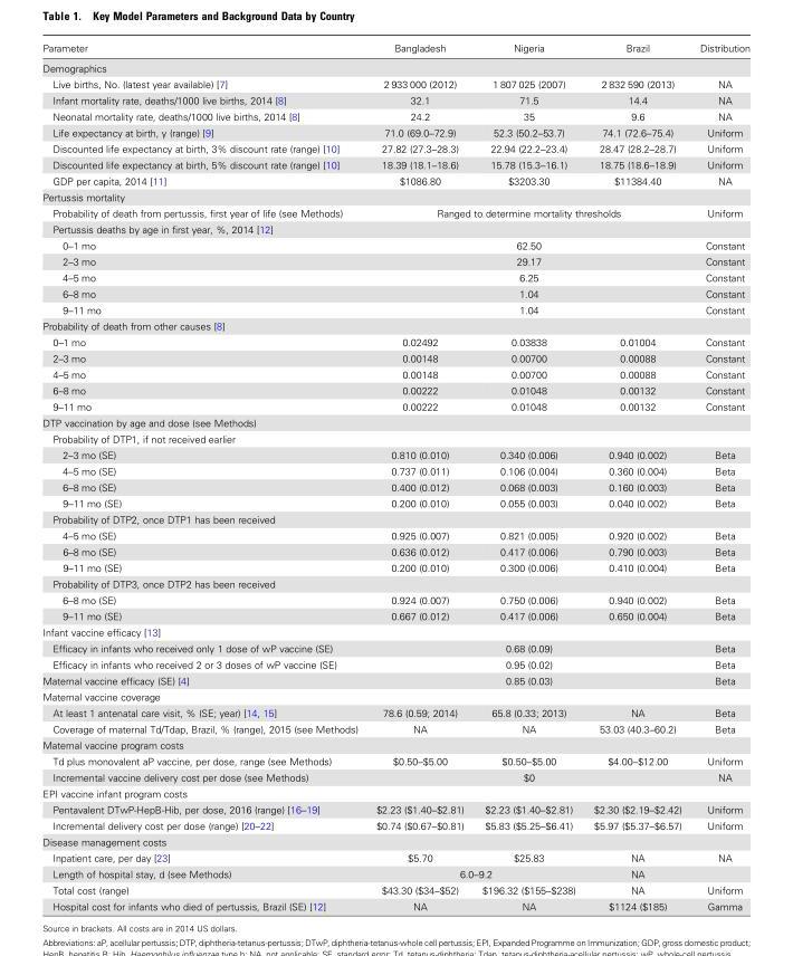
<table><thead><tr><td>Parameter</td><td>Bangladesh</td><td>Nigeria</td><td>Brazil</td><td>Distribution</td></tr></thead><tbody><tr><td colspan="5">Demographics</td></tr><tr><td>Live births, No. (latest year available) [7]</td><td>2 933 000 (2012)</td><td>1 807 025 (2007)</td><td>2 832 590 (2013)</td><td>NA</td></tr><tr><td>Infant mortality rate, deaths/1000 live births, 2014 [8]</td><td>32.1</td><td>71.5</td><td>14.4</td><td>NA</td></tr><tr><td>Neonatal mortality rate, deaths/1000 live births, 2014 [8]</td><td>24.2</td><td>35</td><td>9.6</td><td>NA</td></tr><tr><td>Life expectancy at birth, y (range) [9]</td><td>71.0 (69.0–72.9)</td><td>52.3 (50.2–53.7)</td><td>74.1 (72.6–75.4)</td><td>Uniform</td></tr><tr><td>Discounted life expectancy at birth, 3% discount rate (range) [10]</td><td>27.82 (27.3–28.3)</td><td>22.94 (22.2–23.4)</td><td>28.47 (28.2–28.7)</td><td>Uniform</td></tr><tr><td>Discounted life expectancy at birth, 5% discount rate (range) [10]</td><td>18.39 (18.1–18.6)</td><td>15.78 (15.3–16.1)</td><td>18.75 (18.6–18.9)</td><td>Uniform</td></tr><tr><td>GDP per capita, 2014 [11]</td><td>$1086.80</td><td>$3203.30</td><td>$11384.40</td><td>NA</td></tr><tr><td colspan="5">Pertussis mortality</td></tr><tr><td>Probability of death from pertussis, first year of life (see Methods)</td><td colspan="3">Ranged to determine mortality thresholds</td><td>Uniform</td></tr><tr><td colspan="5">Pertussis deaths by age in first year, %, 2014 [12]</td></tr><tr><td>0–1 mo</td><td colspan="3">62.50</td><td>Constant</td></tr><tr><td>2–3 mo</td><td colspan="3">29.17</td><td>Constant</td></tr><tr><td>4–5 mo</td><td colspan="3">6.25</td><td>Constant</td></tr><tr><td>6–8 mo</td><td colspan="3">1.04</td><td>Constant</td></tr><tr><td>9–11 mo</td><td colspan="3">1.04</td><td>Constant</td></tr><tr><td colspan="5">Probability of death from other causes [8]</td></tr><tr><td>0–1 mo</td><td>0.02492</td><td>0.03838</td><td>0.01004</td><td>Constant</td></tr><tr><td>2–3 mo</td><td>0.00148</td><td>0.00700</td><td>0.00088</td><td>Constant</td></tr><tr><td>4–5 mo</td><td>0.00148</td><td>0.00700</td><td>0.00088</td><td>Constant</td></tr><tr><td>6–8 mo</td><td>0.00222</td><td>0.01048</td><td>0.00132</td><td>Constant</td></tr><tr><td>9–11 mo</td><td>0.00222</td><td>0.01048</td><td>0.00132</td><td>Constant</td></tr><tr><td colspan="5">DTP vaccination by age and dose (see Methods)</td></tr><tr><td colspan="5">Probability of DTP1, if not received earlier</td></tr><tr><td>2–3 mo (SE)</td><td>0.810 (0.010)</td><td>0.340 (0.006)</td><td>0.940 (0.002)</td><td>Beta</td></tr><tr><td>4–5 mo (SE)</td><td>0.737 (0.011)</td><td>0.106 (0.004)</td><td>0.360 (0.004)</td><td>Beta</td></tr><tr><td>6–8 mo (SE)</td><td>0.400 (0.012)</td><td>0.068 (0.003)</td><td>0.160 (0.003)</td><td>Beta</td></tr><tr><td>9–11 mo (SE)</td><td>0.200 (0.010)</td><td>0.055 (0.003)</td><td>0.040 (0.002)</td><td>Beta</td></tr><tr><td colspan="5">Probability of DTP2, once DTP1 has been received</td></tr><tr><td>4–5 mo (SE)</td><td>0.925 (0.007)</td><td>0.821 (0.005)</td><td>0.920 (0.002)</td><td>Beta</td></tr><tr><td>6–8 mo (SE)</td><td>0.636 (0.012)</td><td>0.417 (0.006)</td><td>0.790 (0.003)</td><td>Beta</td></tr><tr><td>9–11 mo (SE)</td><td>0.200 (0.010)</td><td>0.300 (0.006)</td><td>0.410 (0.004)</td><td>Beta</td></tr><tr><td colspan="5">Probability of DTP3, once DTP2 has been received</td></tr><tr><td>6–8 mo (SE)</td><td>0.924 (0.007)</td><td>0.750 (0.006)</td><td>0.940 (0.002)</td><td>Beta</td></tr><tr><td>9–11 mo (SE)</td><td>0.667 (0.012)</td><td>0.417 (0.006)</td><td>0.650 (0.004)</td><td>Beta</td></tr><tr><td colspan="5">Infant vaccine efficacy [13]</td></tr><tr><td>Efficacy in infants who received only 1 dose of wP vaccine (SE)</td><td colspan="3">0.68 (0.09)</td><td>Beta</td></tr><tr><td>Efficacy in infants who received 2 or 3 doses of wP vaccine (SE)</td><td colspan="3">0.95 (0.02)</td><td>Beta</td></tr><tr><td>Maternal vaccine efficacy (SE) [4]</td><td colspan="3">0.85 (0.03)</td><td>Beta</td></tr><tr><td colspan="5">Maternal vaccine coverage</td></tr><tr><td>At least 1 antenatal care visit, % (SE; year) [14, 15]</td><td>78.6 (0.59; 2014)</td><td>65.8 (0.33; 2013)</td><td>NA</td><td>Beta</td></tr><tr><td>Coverage of maternal Td/Tdap, Brazil, % (range), 2015 (see Methods)</td><td>NA</td><td>NA</td><td>53.03 (40.3–60.2)</td><td>Beta</td></tr><tr><td colspan="5">Maternal vaccine program costs</td></tr><tr><td>Td plus monovalent aP vaccine, per dose, range (see Methods)</td><td>$0.50–$5.00</td><td>$0.50–$5.00</td><td>$4.00–$12.00</td><td>Uniform</td></tr><tr><td>Incremental vaccine delivery cost per dose (see Methods)</td><td colspan="3">$0</td><td>NA</td></tr><tr><td colspan="5">EPI vaccine infant program costs</td></tr><tr><td>Pentavalent DTwP-HepB-Hib, per dose, 2016 (range) [16–19]</td><td>$2.23 ($1.40–$2.81)</td><td>$2.23 ($1.40–$2.81)</td><td>$2.30 ($2.19–$2.42)</td><td>Uniform</td></tr><tr><td>Incremental delivery cost per dose (range) [20–22]</td><td>$0.74 ($0.67–$0.81)</td><td>$5.83 ($5.25–$6.41)</td><td>$5.97 ($5.37–$6.57)</td><td>Uniform</td></tr><tr><td colspan="5">Disease management costs</td></tr><tr><td>Inpatient care, per day [23]</td><td>$5.70</td><td>$25.83</td><td>NA</td><td>NA</td></tr><tr><td>Length of hospital stay, d (see Methods)</td><td colspan="2">6.0–9.2</td><td>NA</td><td></td></tr><tr><td>Total cost (range)</td><td>$43.30 ($34–$52)</td><td>$196.32 ($155–$238)</td><td>NA</td><td>Uniform</td></tr><tr><td>Hospital cost for infants who died of pertussis, Brazil (SE) [12]</td><td>NA</td><td>NA</td><td>$1124 ($185)</td><td>Gamma</td></tr></tbody></table>